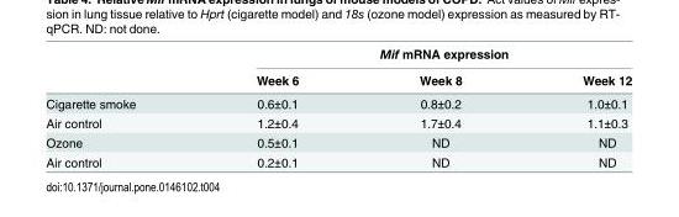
<table><thead><tr><td rowspan="2"></td><td colspan="3">Mif mRNA expression</td></tr><tr><td>Week 6</td><td>Week 8</td><td>Week 12</td></tr></thead><tbody><tr><td>Cigarette smoke</td><td>0.6±0.1</td><td>0.8±0.2</td><td>1.0±0.1</td></tr><tr><td>Air control</td><td>1.2±0.4</td><td>1.7±0.4</td><td>1.1±0.3</td></tr><tr><td>Ozone</td><td>0.5±0.1</td><td>ND</td><td>ND</td></tr><tr><td>Air control</td><td>0.2±0.1</td><td>ND</td><td>ND</td></tr></tbody></table>